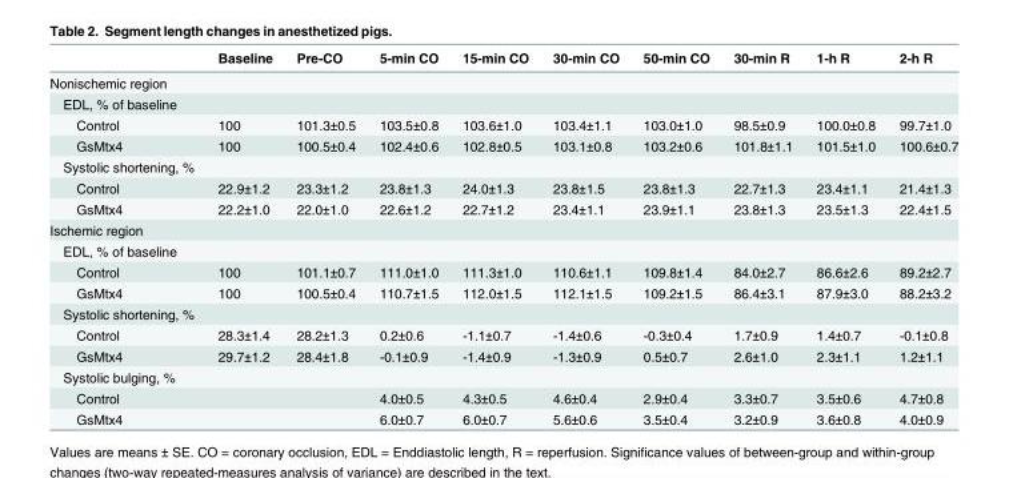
<table><thead><tr><td></td><td>Baseline</td><td>Pre-CO</td><td>5-min CO</td><td>15-min CO</td><td>30-min CO</td><td>50-min CO</td><td>30-min R</td><td>1-h R</td><td>2-h R</td></tr></thead><tbody><tr><td colspan="10">Nonischemic region</td></tr><tr><td colspan="10">EDL, % of baseline</td></tr><tr><td>Control</td><td>100</td><td>101.3±0.5</td><td>103.5±0.8</td><td>103.6±1.0</td><td>103.4±1.1</td><td>103.0±1.0</td><td>98.5±0.9</td><td>100.0±0.8</td><td>99.7±1.0</td></tr><tr><td>GsMtx4</td><td>100</td><td>100.5±0.4</td><td>102.4±0.6</td><td>102.8±0.5</td><td>103.1±0.8</td><td>103.2±0.6</td><td>101.8±1.1</td><td>101.5±1.0</td><td>100.6±0.7</td></tr><tr><td colspan="10">Systolic shortening, %</td></tr><tr><td>Control</td><td>22.9±1.2</td><td>23.3±1.2</td><td>23.8±1.3</td><td>24.0±1.3</td><td>23.8±1.5</td><td>23.8±1.3</td><td>22.7±1.3</td><td>23.4±1.1</td><td>21.4±1.3</td></tr><tr><td>GsMtx4</td><td>22.2±1.0</td><td>22.0±1.0</td><td>22.6±1.2</td><td>22.7±1.2</td><td>23.4±1.1</td><td>23.9±1.1</td><td>23.8±1.3</td><td>23.5±1.3</td><td>22.4±1.5</td></tr><tr><td colspan="10">Ischemic region</td></tr><tr><td colspan="10">EDL, % of baseline</td></tr><tr><td>Control</td><td>100</td><td>101.1±0.7</td><td>111.0±1.0</td><td>111.3±1.0</td><td>110.6±1.1</td><td>109.8±1.4</td><td>84.0±2.7</td><td>86.6±2.6</td><td>89.2±2.7</td></tr><tr><td>GsMtx4</td><td>100</td><td>100.5±0.4</td><td>110.7±1.5</td><td>112.0±1.5</td><td>112.1±1.5</td><td>109.2±1.5</td><td>86.4±3.1</td><td>87.9±3.0</td><td>88.2±3.2</td></tr><tr><td colspan="10">Systolic shortening, %</td></tr><tr><td>Control</td><td>28.3±1.4</td><td>28.2±1.3</td><td>0.2±0.6</td><td>-1.1±0.7</td><td>-1.4±0.6</td><td>-0.3±0.4</td><td>1.7±0.9</td><td>1.4±0.7</td><td>-0.1±0.8</td></tr><tr><td>GsMtx4</td><td>29.7±1.2</td><td>28.4±1.8</td><td>-0.1±0.9</td><td>-1.4±0.9</td><td>-1.3±0.9</td><td>0.5±0.7</td><td>2.6±1.0</td><td>2.3±1.1</td><td>1.2±1.1</td></tr><tr><td colspan="10">Systolic bulging, %</td></tr><tr><td>Control</td><td></td><td></td><td>4.0±0.5</td><td>4.3±0.5</td><td>4.6±0.4</td><td>2.9±0.4</td><td>3.3±0.7</td><td>3.5±0.6</td><td>4.7±0.8</td></tr><tr><td>GsMtx4</td><td></td><td></td><td>6.0±0.7</td><td>6.0±0.7</td><td>5.6±0.6</td><td>3.5±0.4</td><td>3.2±0.9</td><td>3.6±0.8</td><td>4.0±0.9</td></tr></tbody></table>